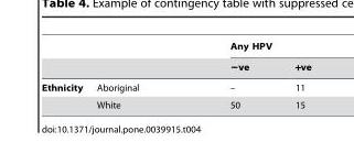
<table><thead><tr><td rowspan="2"></td><td rowspan="2"></td><td colspan="2">Any HPV</td></tr><tr><td>−ve</td><td>+ve</td></tr></thead><tbody><tr><td rowspan="2">Ethnicity</td><td>Aboriginal</td><td>–</td><td>11</td></tr><tr><td>White</td><td>50</td><td>15</td></tr></tbody></table>